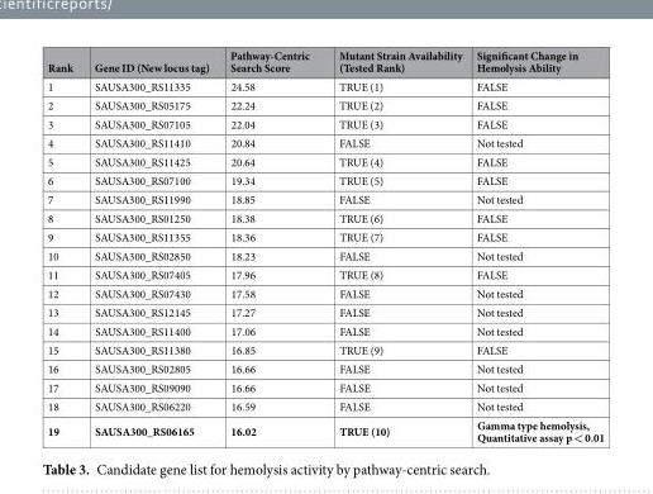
<table><thead><tr><td>Rank</td><td>Gene ID (New locus tag)</td><td>Pathway-Centric Search Score</td><td>Mutant Strain Availability (Tested Rank)</td><td>Significant Change in Hemolysis Ability</td></tr></thead><tbody><tr><td>1</td><td>SAUSA300_RS11335</td><td>24.58</td><td>TRUE (1)</td><td>FALSE</td></tr><tr><td>2</td><td>SAUSA300_RS05175</td><td>22.24</td><td>TRUE (2)</td><td>FALSE</td></tr><tr><td>3</td><td>SAUSA300_RS07105</td><td>22.04</td><td>TRUE (3)</td><td>FALSE</td></tr><tr><td>4</td><td>SAUSA300_RS11410</td><td>20.84</td><td>FALSE</td><td>Not tested</td></tr><tr><td>5</td><td>SAUSA300_RS11425</td><td>20.64</td><td>TRUE (4)</td><td>FALSE</td></tr><tr><td>6</td><td>SAUSA300_RS07100</td><td>19.34</td><td>TRUE (5)</td><td>FALSE</td></tr><tr><td>7</td><td>SAUSA300_RS11990</td><td>18.85</td><td>FALSE</td><td>Not tested</td></tr><tr><td>8</td><td>SAUSA300_RS01250</td><td>18.38</td><td>TRUE (6)</td><td>FALSE</td></tr><tr><td>9</td><td>SAUSA300_RS11355</td><td>18.36</td><td>TRUE (7)</td><td>FALSE</td></tr><tr><td>10</td><td>SAUSA300_RS02850</td><td>18.23</td><td>FALSE</td><td>Not tested</td></tr><tr><td>11</td><td>SAUSA300_RS07405</td><td>17.96</td><td>TRUE (8)</td><td>FALSE</td></tr><tr><td>12</td><td>SAUSA300_RS07430</td><td>17.58</td><td>FALSE</td><td>Not tested</td></tr><tr><td>13</td><td>SAUSA300_RS12145</td><td>17.27</td><td>FALSE</td><td>Not tested</td></tr><tr><td>14</td><td>SAUSA300_RS11400</td><td>17.06</td><td>FALSE</td><td>Not tested</td></tr><tr><td>15</td><td>SAUSA300_RS11380</td><td>16.85</td><td>TRUE (9)</td><td>FALSE</td></tr><tr><td>16</td><td>SAUSA300_RS02805</td><td>16.66</td><td>FALSE</td><td>Not tested</td></tr><tr><td>17</td><td>SAUSA300_RS09090</td><td>16.66</td><td>FALSE</td><td>Not tested</td></tr><tr><td>18</td><td>SAUSA300_RS06220</td><td>16.59</td><td>FALSE</td><td>Not tested</td></tr><tr><td>19</td><td>SAUSA300_RS06165</td><td>16.02</td><td>TRUE (10)</td><td>Gamma type hemolysis, Quantitative assay p &lt; 0.01</td></tr></tbody></table>